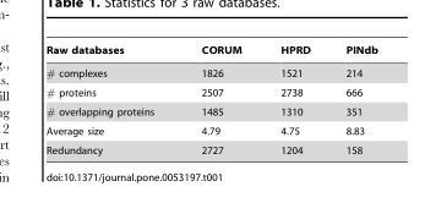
<table><thead><tr><td>Raw databases</td><td>CORUM</td><td>HPRD</td><td>PINdb</td></tr></thead><tbody><tr><td># complexes</td><td>1826</td><td>1521</td><td>214</td></tr><tr><td># proteins</td><td>2507</td><td>2738</td><td>666</td></tr><tr><td># overlapping proteins</td><td>1485</td><td>1310</td><td>351</td></tr><tr><td>Average size</td><td>4.79</td><td>4.75</td><td>8.83</td></tr><tr><td>Redundancy</td><td>2727</td><td>1204</td><td>158</td></tr></tbody></table>